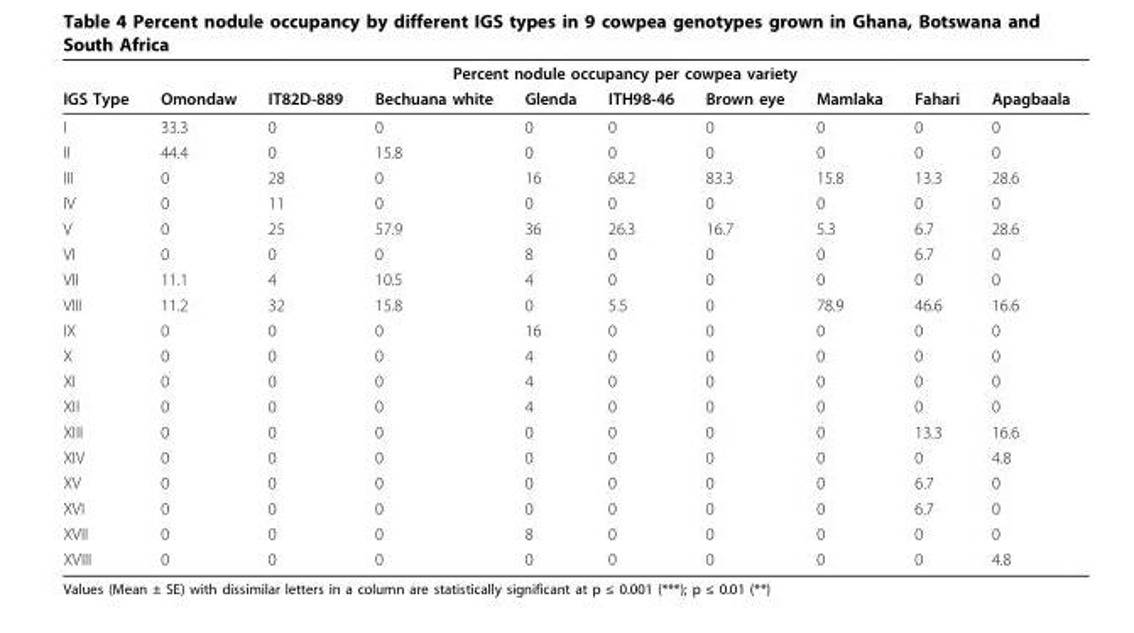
<table><thead><tr><td rowspan="2">IGS Type</td><td colspan="9">Percent nodule occupancy per cowpea variety</td></tr><tr><td>Omondaw</td><td>IT82D-889</td><td>Bechuana white</td><td>Glenda</td><td>ITH98-46</td><td>Brown eye</td><td>Mamlaka</td><td>Fahari</td><td>Apagbaala</td></tr></thead><tbody><tr><td>I</td><td>33.3</td><td>0</td><td>0</td><td>0</td><td>0</td><td>0</td><td>0</td><td>0</td><td>0</td></tr><tr><td>II</td><td>44.4</td><td>0</td><td>15.8</td><td>0</td><td>0</td><td>0</td><td>0</td><td>0</td><td>0</td></tr><tr><td>III</td><td>0</td><td>28</td><td>0</td><td>16</td><td>68.2</td><td>83.3</td><td>15.8</td><td>13.3</td><td>28.6</td></tr><tr><td>IV</td><td>0</td><td>11</td><td>0</td><td>0</td><td>0</td><td>0</td><td>0</td><td>0</td><td>0</td></tr><tr><td>V</td><td>0</td><td>25</td><td>57.9</td><td>36</td><td>26.3</td><td>16.7</td><td>5.3</td><td>6.7</td><td>28.6</td></tr><tr><td>VI</td><td>0</td><td>0</td><td>0</td><td>8</td><td>0</td><td>0</td><td>0</td><td>6.7</td><td>0</td></tr><tr><td>VII</td><td>11.1</td><td>4</td><td>10.5</td><td>4</td><td>0</td><td>0</td><td>0</td><td>0</td><td>0</td></tr><tr><td>VIII</td><td>11.2</td><td>32</td><td>15.8</td><td>0</td><td>5.5</td><td>0</td><td>78.9</td><td>46.6</td><td>16.6</td></tr><tr><td>IX</td><td>0</td><td>0</td><td>0</td><td>16</td><td>0</td><td>0</td><td>0</td><td>0</td><td>0</td></tr><tr><td>X</td><td>0</td><td>0</td><td>0</td><td>4</td><td>0</td><td>0</td><td>0</td><td>0</td><td>0</td></tr><tr><td>XI</td><td>0</td><td>0</td><td>0</td><td>4</td><td>0</td><td>0</td><td>0</td><td>0</td><td>0</td></tr><tr><td>XII</td><td>0</td><td>0</td><td>0</td><td>4</td><td>0</td><td>0</td><td>0</td><td>0</td><td>0</td></tr><tr><td>XIII</td><td>0</td><td>0</td><td>0</td><td>0</td><td>0</td><td>0</td><td>0</td><td>13.3</td><td>16.6</td></tr><tr><td>XIV</td><td>0</td><td>0</td><td>0</td><td>0</td><td>0</td><td>0</td><td>0</td><td>0</td><td>4.8</td></tr><tr><td>XV</td><td>0</td><td>0</td><td>0</td><td>0</td><td>0</td><td>0</td><td>0</td><td>6.7</td><td>0</td></tr><tr><td>XVI</td><td>0</td><td>0</td><td>0</td><td>0</td><td>0</td><td>0</td><td>0</td><td>6.7</td><td>0</td></tr><tr><td>XVII</td><td>0</td><td>0</td><td>0</td><td>8</td><td>0</td><td>0</td><td>0</td><td>0</td><td>0</td></tr><tr><td>XVIII</td><td>0</td><td>0</td><td>0</td><td>0</td><td>0</td><td>0</td><td>0</td><td>0</td><td>4.8</td></tr></tbody></table>